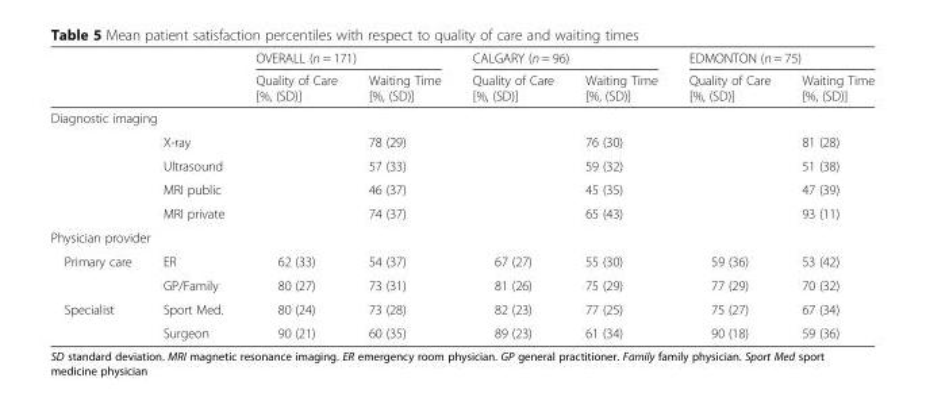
<table><thead><tr><td rowspan="2"></td><td rowspan="2"></td><td colspan="2">OVERALL (n = 171)</td><td colspan="2">CALGARY (n = 96)</td><td colspan="2">EDMONTON (n = 75)</td></tr><tr><td>Quality of Care [%, (SD)]</td><td>Waiting Time [%, (SD)]</td><td>Quality of Care [%, (SD)]</td><td>Waiting Time [%, (SD)]</td><td>Quality of Care [%, (SD)]</td><td>Waiting Time [%, (SD)]</td></tr></thead><tbody><tr><td colspan="8">Diagnostic imaging</td></tr><tr><td></td><td>X-ray</td><td></td><td>78 (29)</td><td></td><td>76 (30)</td><td></td><td>81 (28)</td></tr><tr><td></td><td>Ultrasound</td><td></td><td>57 (33)</td><td></td><td>59 (32)</td><td></td><td>51 (38)</td></tr><tr><td></td><td>MRI public</td><td></td><td>46 (37)</td><td></td><td>45 (35)</td><td></td><td>47 (39)</td></tr><tr><td></td><td>MRI private</td><td></td><td>74 (37)</td><td></td><td>65 (43)</td><td></td><td>93 (11)</td></tr><tr><td colspan="8">Physician provider</td></tr><tr><td rowspan="2">Primary care</td><td>ER</td><td>62 (33)</td><td>54 (37)</td><td>67 (27)</td><td>55 (30)</td><td>59 (36)</td><td>53 (42)</td></tr><tr><td>GP/Family</td><td>80 (27)</td><td>73 (31)</td><td>81 (26)</td><td>75 (29)</td><td>77 (29)</td><td>70 (32)</td></tr><tr><td rowspan="2">Specialist</td><td>Sport Med.</td><td>80 (24)</td><td>73 (28)</td><td>82 (23)</td><td>77 (25)</td><td>75 (27)</td><td>67 (34)</td></tr><tr><td>Surgeon</td><td>90 (21)</td><td>60 (35)</td><td>89 (23)</td><td>61 (34)</td><td>90 (18)</td><td>59 (36)</td></tr></tbody></table>